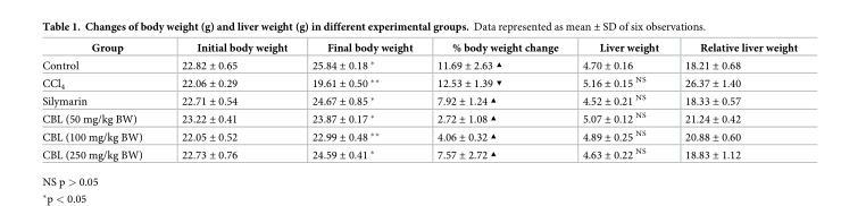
<table><thead><tr><td>Group</td><td>Initial body weight</td><td>Final body weight</td><td>% body weight change</td><td>Liver weight</td><td>Relative liver weight</td></tr></thead><tbody><tr><td>Control</td><td>22.82 ± 0.65</td><td>25.84 ± 0.18 *</td><td>11.69 ± 2.63 ▲</td><td>4.70 ± 0.16</td><td>18.21 ± 0.68</td></tr><tr><td>CCl<sub>4</sub></td><td>22.06 ± 0.29</td><td>19.61 ± 0.50 **</td><td>12.53 ± 1.39 ▼</td><td>5.16 ± 0.15 <sup>NS</sup></td><td>26.37 ± 1.40</td></tr><tr><td>Silymarin</td><td>22.71 ± 0.54</td><td>24.67 ± 0.85 *</td><td>7.92 ± 1.24 ▲</td><td>4.52 ± 0.21 <sup>NS</sup></td><td>18.33 ± 0.57</td></tr><tr><td>CBL (50 mg/kg BW)</td><td>23.22 ± 0.41</td><td>23.87 ± 0.17 *</td><td>2.72 ± 1.08 ▲</td><td>5.07 ± 0.12 <sup>NS</sup></td><td>21.24 ± 0.42</td></tr><tr><td>CBL (100 mg/kg BW)</td><td>22.05 ± 0.52</td><td>22.99 ± 0.48 **</td><td>4.06 ± 0.32 ▲</td><td>4.89 ± 0.25 <sup>NS</sup></td><td>20.88 ± 0.60</td></tr><tr><td>CBL (250 mg/kg BW)</td><td>22.73 ± 0.76</td><td>24.59 ± 0.41 *</td><td>7.57 ± 2.72 ▲</td><td>4.63 ± 0.22 <sup>NS</sup></td><td>18.83 ± 1.12</td></tr></tbody></table>